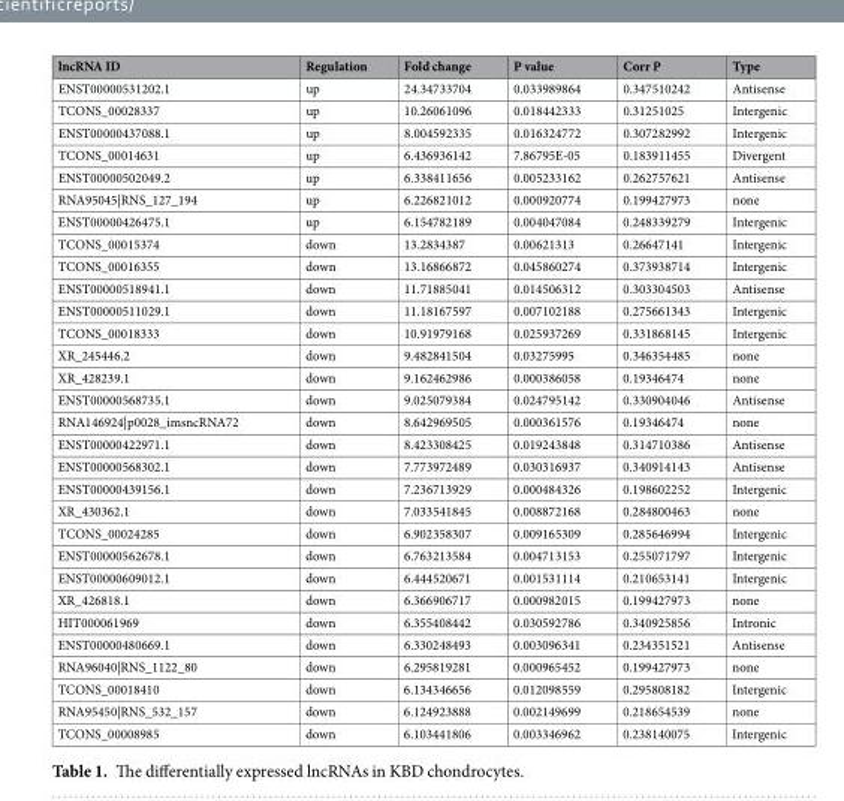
<table><thead><tr><td>lncRNA ID</td><td>Regulation</td><td>Fold change</td><td>P value</td><td>Corr P</td><td>Type</td></tr></thead><tbody><tr><td>ENST00000531202.1</td><td>up</td><td>24.34733704</td><td>0.033989864</td><td>0.347510242</td><td>Antisense</td></tr><tr><td>TCONS_00028337</td><td>up</td><td>10.26061096</td><td>0.018442333</td><td>0.31251025</td><td>Intergenic</td></tr><tr><td>ENST00000437088.1</td><td>up</td><td>8.004592335</td><td>0.016324772</td><td>0.307282992</td><td>Intergenic</td></tr><tr><td>TCONS_00014631</td><td>up</td><td>6.436936142</td><td>7.86795E-05</td><td>0.183911455</td><td>Divergent</td></tr><tr><td>ENST00000502049.2</td><td>up</td><td>6.338411656</td><td>0.005233162</td><td>0.262757621</td><td>Antisense</td></tr><tr><td>RNA95045|RNS_127_194</td><td>up</td><td>6.226821012</td><td>0.000920774</td><td>0.199427973</td><td>none</td></tr><tr><td>ENST00000426475.1</td><td>up</td><td>6.154782189</td><td>0.004047084</td><td>0.248339279</td><td>Intergenic</td></tr><tr><td>TCONS_00015374</td><td>down</td><td>13.2834387</td><td>0.00621313</td><td>0.26647141</td><td>Intergenic</td></tr><tr><td>TCONS_00016355</td><td>down</td><td>13.16866872</td><td>0.045860274</td><td>0.373938714</td><td>Intergenic</td></tr><tr><td>ENST00000518941.1</td><td>down</td><td>11.71885041</td><td>0.014506312</td><td>0.303304503</td><td>Antisense</td></tr><tr><td>ENST00000511029.1</td><td>down</td><td>11.18167597</td><td>0.007102188</td><td>0.275661343</td><td>Intergenic</td></tr><tr><td>TCONS_00018333</td><td>down</td><td>10.91979168</td><td>0.025937269</td><td>0.331868145</td><td>Intergenic</td></tr><tr><td>XR_245446.2</td><td>down</td><td>9.482841504</td><td>0.03275995</td><td>0.346354485</td><td>none</td></tr><tr><td>XR_428239.1</td><td>down</td><td>9.162462986</td><td>0.000386058</td><td>0.19346474</td><td>none</td></tr><tr><td>ENST00000568735.1</td><td>down</td><td>9.025079384</td><td>0.024795142</td><td>0.330904046</td><td>Antisense</td></tr><tr><td>RNA146924|p0028_imsncRNA72</td><td>down</td><td>8.642969505</td><td>0.000361576</td><td>0.19346474</td><td>none</td></tr><tr><td>ENST00000422971.1</td><td>down</td><td>8.423308425</td><td>0.019243848</td><td>0.314710386</td><td>Antisense</td></tr><tr><td>ENST00000568302.1</td><td>down</td><td>7.773972489</td><td>0.030316937</td><td>0.340914143</td><td>Antisense</td></tr><tr><td>ENST00000439156.1</td><td>down</td><td>7.236713929</td><td>0.000484326</td><td>0.198602252</td><td>Intergenic</td></tr><tr><td>XR_430362.1</td><td>down</td><td>7.033541845</td><td>0.008872168</td><td>0.284800463</td><td>none</td></tr><tr><td>TCONS_00024285</td><td>down</td><td>6.902358307</td><td>0.009165309</td><td>0.285646994</td><td>Intergenic</td></tr><tr><td>ENST00000562678.1</td><td>down</td><td>6.763213584</td><td>0.004713153</td><td>0.255071797</td><td>Intergenic</td></tr><tr><td>ENST00000609012.1</td><td>down</td><td>6.444520671</td><td>0.001531114</td><td>0.210653141</td><td>Intergenic</td></tr><tr><td>XR_426818.1</td><td>down</td><td>6.366906717</td><td>0.000982015</td><td>0.199427973</td><td>none</td></tr><tr><td>HIT000061969</td><td>down</td><td>6.355408442</td><td>0.030592786</td><td>0.340925856</td><td>Intronic</td></tr><tr><td>ENST00000480669.1</td><td>down</td><td>6.330248493</td><td>0.003096341</td><td>0.234351521</td><td>Antisense</td></tr><tr><td>RNA96040|RNS_1122_80</td><td>down</td><td>6.295819281</td><td>0.000965452</td><td>0.199427973</td><td>none</td></tr><tr><td>TCONS_00018410</td><td>down</td><td>6.134346656</td><td>0.012098559</td><td>0.295808182</td><td>Intergenic</td></tr><tr><td>RNA95450|RNS_532_157</td><td>down</td><td>6.124923888</td><td>0.002149699</td><td>0.218654539</td><td>none</td></tr><tr><td>TCONS_00008985</td><td>down</td><td>6.103441806</td><td>0.003346962</td><td>0.238140075</td><td>Intergenic</td></tr></tbody></table>